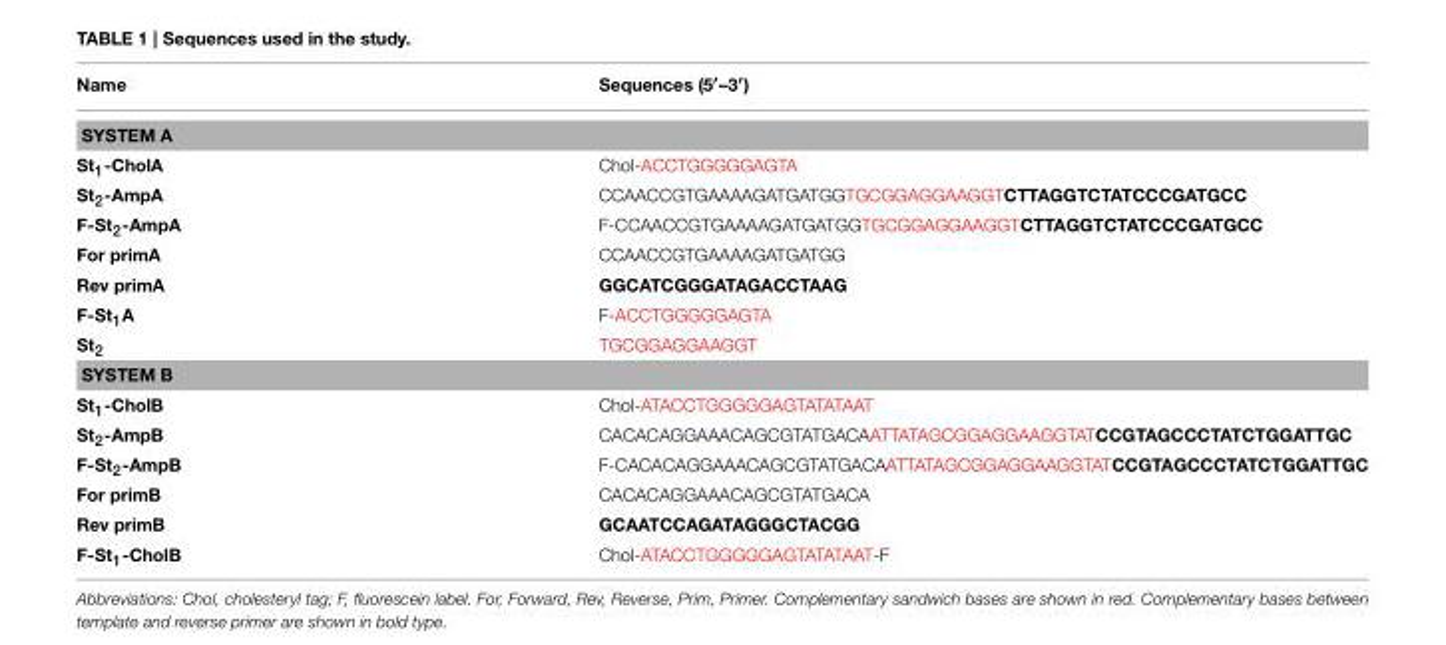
<table><thead><tr><td>Name</td><td>Sequences (5′–3′)</td></tr></thead><tbody><tr><td colspan="2">SYSTEM A</td></tr><tr><td>St<sub>1</sub>-CholA</td><td>Chol-ACCTGGGGGAGTA</td></tr><tr><td>St<sub>2</sub>-AmpA</td><td>CCAACCGTGAAAAGATGATGGTGCGGAGGAAGGTCTTAGGTCTATCCCGATGCC</td></tr><tr><td>F-St<sub>2</sub>-AmpA</td><td>F-CCAACCGTGAAAAGATGATGGTGCGGAGGAAGGTCTTAGGTCTATCCCGATGCC</td></tr><tr><td>For primA</td><td>CCAACCGTGAAAAGATGATGG</td></tr><tr><td>Rev primA</td><td>GGCATCGGGATAGACCTAAG</td></tr><tr><td>F-St<sub>1</sub>A</td><td>F-ACCTGGGGGAGTA</td></tr><tr><td>St<sub>2</sub></td><td>TGCGGAGGAAGGT</td></tr><tr><td colspan="2">SYSTEM B</td></tr><tr><td>St<sub>1</sub>-CholB</td><td>Chol-ATACCTGGGGGAGTATATAAT</td></tr><tr><td>St<sub>2</sub>-AmpB</td><td>CACACAGGAAACAGCGTATGACAATTATAGCGGAGGAAGGTATCCGTAGCCCTATCTGGATTGC</td></tr><tr><td>F-St<sub>2</sub>-AmpB</td><td>F-CACACAGGAAACAGCGTATGACAATTATAGCGGAGGAAGGTATCCGTAGCCCTATCTGGATTGC</td></tr><tr><td>For primB</td><td>CACACAGGAAACAGCGTATGACA</td></tr><tr><td>Rev primB</td><td>GCAATCCAGATAGGGCTACGG</td></tr><tr><td>F-St<sub>1</sub>-CholB</td><td>Chol-ATACCTGGGGGAGTATATAAT-F</td></tr></tbody></table>